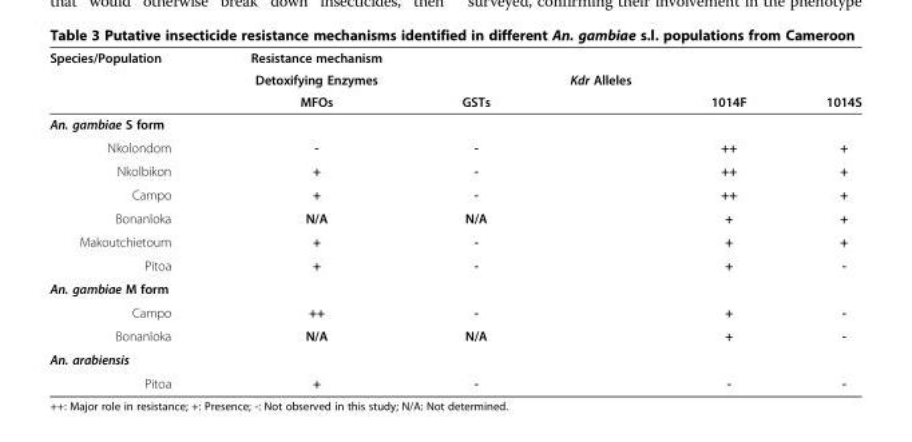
<table><thead><tr><td rowspan="3">Species/Population</td><td rowspan="3">Resistance mechanism Detoxifying Enzymes MFOs</td><td rowspan="3">GSTs</td><td rowspan="3">Kdr Alleles</td><td rowspan="3">1014F</td><td rowspan="3">1014S</td></tr><tr></tr><tr></tr></thead><tbody><tr><td colspan="6">An. gambiae S form</td></tr><tr><td>Nkolondom</td><td>-</td><td>-</td><td></td><td>++</td><td>+</td></tr><tr><td>Nkolbikon</td><td>+</td><td>-</td><td></td><td>++</td><td>+</td></tr><tr><td>Campo</td><td>+</td><td>-</td><td></td><td>++</td><td>+</td></tr><tr><td>Bonanloka</td><td>N/A</td><td>N/A</td><td></td><td>+</td><td>+</td></tr><tr><td>Makoutchietoum</td><td>+</td><td>-</td><td></td><td>+</td><td>+</td></tr><tr><td>Pitoa</td><td>+</td><td>-</td><td></td><td>+</td><td>-</td></tr><tr><td colspan="6">An. gambiae M form</td></tr><tr><td>Campo</td><td>++</td><td>-</td><td></td><td>+</td><td>-</td></tr><tr><td>Bonanloka</td><td>N/A</td><td>N/A</td><td></td><td>+</td><td>-</td></tr><tr><td colspan="6">An. arabiensis</td></tr><tr><td>Pitoa</td><td>+</td><td>-</td><td></td><td>-</td><td>-</td></tr></tbody></table>